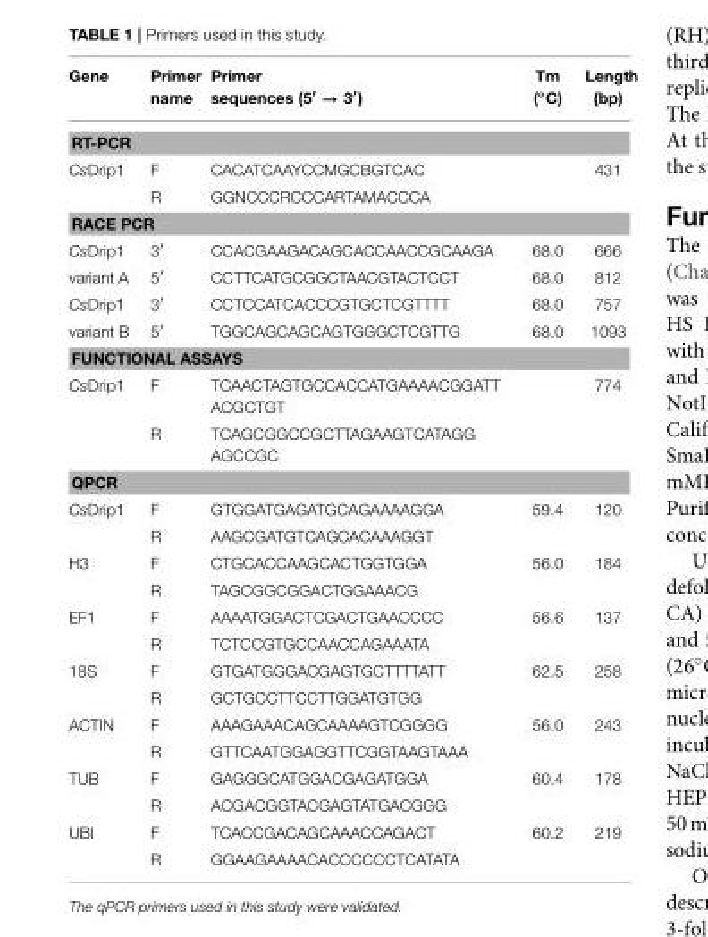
<table><thead><tr><td>Gene</td><td>Primer name</td><td>Primer sequences (5′ → 3′)</td><td>Tm (◦C)</td><td>Length (bp)</td></tr></thead><tbody><tr><td colspan="5">RT-PCR</td></tr><tr><td rowspan="2">CsDrip1</td><td>F</td><td>CACATCAAYCCMGCBGTCAC</td><td></td><td>431</td></tr><tr><td>R</td><td>GGNCCCRCCCARTAMACCCA</td><td></td><td></td></tr><tr><td colspan="5">RACE PCR</td></tr><tr><td>CsDrip1</td><td>3′</td><td>CCACGAAGACAGCACCAACCGCAAGA</td><td>68.0</td><td>666</td></tr><tr><td>variant A</td><td>5′</td><td>CCTTCATGCGGCTAACGTACTCCT</td><td>68.0</td><td>812</td></tr><tr><td>CsDrip1</td><td>3′</td><td>CCTCCATCACCCGTGCTCGTTTT</td><td>68.0</td><td>757</td></tr><tr><td>variant B</td><td>5′</td><td>TGGCAGCAGCAGTGGGCTCGTTG</td><td>68.0</td><td>1093</td></tr><tr><td colspan="5">FUNCTIONAL ASSAYS</td></tr><tr><td rowspan="2">CsDrip1</td><td>F</td><td>TCAACTAGTGCCACCATGAAAACGGATT ACGCTGT</td><td></td><td>774</td></tr><tr><td>R</td><td>TCAGCGGCCGCTTAGAAGTCATAGG AGCCGC</td><td></td><td></td></tr><tr><td colspan="5">QPCR</td></tr><tr><td rowspan="2">CsDrip1</td><td>F</td><td>GTGGATGAGATGCAGAAAAGGA</td><td>59.4</td><td>120</td></tr><tr><td>R</td><td>AAGCGATGTCAGCACAAAGGT</td><td></td><td></td></tr><tr><td rowspan="2">H3</td><td>F</td><td>CTGCACCAAGCACTGGTGGA</td><td>56.0</td><td>184</td></tr><tr><td>R</td><td>TAGCGGCGGACTGGAAACG</td><td></td><td></td></tr><tr><td rowspan="2">EF1</td><td>F</td><td>AAAATGGACTCGACTGAACCCC</td><td>56.6</td><td>137</td></tr><tr><td>R</td><td>TCTCCGTGCCAACCAGAAATA</td><td></td><td></td></tr><tr><td rowspan="2">18S</td><td>F</td><td>GTGATGGGACGAGTGCTTTTATT</td><td>62.5</td><td>258</td></tr><tr><td>R</td><td>GCTGCCTTCCTTGGATGTGG</td><td></td><td></td></tr><tr><td rowspan="2">ACTIN</td><td>F</td><td>AAAGAAACAGCAAAAGTCGGGG</td><td>56.0</td><td>243</td></tr><tr><td>R</td><td>GTTCAATGGAGGTTCGGTAAGTAAA</td><td></td><td></td></tr><tr><td rowspan="2">TUB</td><td>F</td><td>GAGGGCATGGACGAGATGGA</td><td>60.4</td><td>178</td></tr><tr><td>R</td><td>ACGACGGTACGAGTATGACGGG</td><td></td><td></td></tr><tr><td rowspan="2">UBI</td><td>F</td><td>TCACCGACAGCAAACCAGACT</td><td>60.2</td><td>219</td></tr><tr><td>R</td><td>GGAAGAAAACACCCCCCTCATATA</td><td></td><td></td></tr></tbody></table>